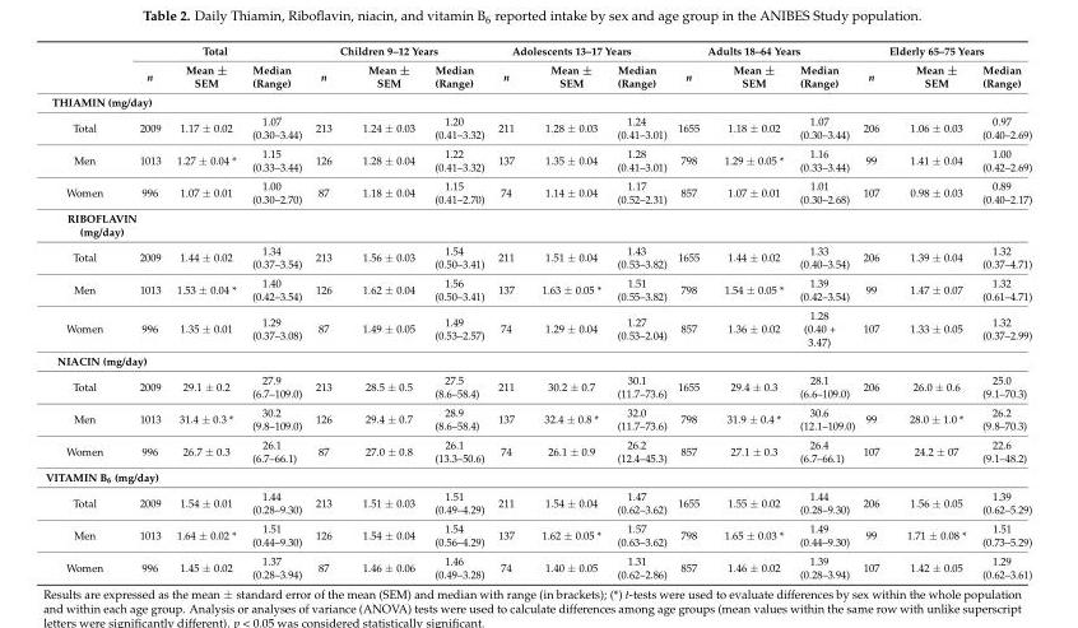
<table><thead><tr><td rowspan="2"></td><td colspan="3">Total</td><td colspan="3">Children 9–12 Years</td><td colspan="3">Adolescents 13–17 Years</td><td colspan="3">Adults 18–64 Years</td><td colspan="3">Elderly 65–75 Years</td></tr><tr><td>n</td><td>Mean ± SEM</td><td>Median (Range)</td><td>n</td><td>Mean ± SEM</td><td>Median (Range)</td><td>n</td><td>Mean ± SEM</td><td>Median (Range)</td><td>n</td><td>Mean ± SEM</td><td>Median (Range)</td><td>n</td><td>Mean ± SEM</td><td>Median (Range)</td></tr></thead><tbody><tr><td colspan="16">THIAMIN (mg/day)</td></tr><tr><td>Total</td><td>2009</td><td>1.17 ± 0.02</td><td>1.07 (0.30–3.44)</td><td>213</td><td>1.24 ± 0.03</td><td>1.20 (0.41–3.32)</td><td>211</td><td>1.28 ± 0.03</td><td>1.24 (0.41–3.01)</td><td>1655</td><td>1.18 ± 0.02</td><td>1.07 (0.30–3.44)</td><td>206</td><td>1.06 ± 0.03</td><td>0.97 (0.40–2.69)</td></tr><tr><td>Men</td><td>1013</td><td>1.27 ± 0.04 *</td><td>1.15 (0.33–3.44)</td><td>126</td><td>1.28 ± 0.04</td><td>1.22 (0.41–3.32)</td><td>137</td><td>1.35 ± 0.04</td><td>1.28 (0.41–3.01)</td><td>798</td><td>1.29 ± 0.05 *</td><td>1.16 (0.33–3.44)</td><td>99</td><td>1.41 ± 0.04</td><td>1.00 (0.42–2.69)</td></tr><tr><td>Women</td><td>996</td><td>1.07 ± 0.01</td><td>1.00 (0.30–2.70)</td><td>87</td><td>1.18 ± 0.04</td><td>1.15 (0.41–2.70)</td><td>74</td><td>1.14 ± 0.04</td><td>1.17 (0.52–2.31)</td><td>857</td><td>1.07 ± 0.01</td><td>1.01 (0.30–2.68)</td><td>107</td><td>0.98 ± 0.03</td><td>0.89 (0.40–2.17)</td></tr><tr><td colspan="16">RIBOFLAVIN (mg/day)</td></tr><tr><td>Total</td><td>2009</td><td>1.44 ± 0.02</td><td>1.34 (0.37–3.54)</td><td>213</td><td>1.56 ± 0.03</td><td>1.54 (0.50–3.41)</td><td>211</td><td>1.51 ± 0.04</td><td>1.43 (0.53–3.82)</td><td>1655</td><td>1.44 ± 0.02</td><td>1.33 (0.40–3.54)</td><td>206</td><td>1.39 ± 0.04</td><td>1.32 (0.37–4.71)</td></tr><tr><td>Men</td><td>1013</td><td>1.53 ± 0.04 *</td><td>1.40 (0.42–3.54)</td><td>126</td><td>1.62 ± 0.04</td><td>1.56 (0.50–3.41)</td><td>137</td><td>1.63 ± 0.05 *</td><td>1.51 (0.55–3.82)</td><td>798</td><td>1.54 ± 0.05 *</td><td>1.39 (0.42–3.54)</td><td>99</td><td>1.47 ± 0.07</td><td>1.32 (0.61–4.71)</td></tr><tr><td>Women</td><td>996</td><td>1.35 ± 0.01</td><td>1.29 (0.37–3.08)</td><td>87</td><td>1.49 ± 0.05</td><td>1.49 (0.53–2.57)</td><td>74</td><td>1.29 ± 0.04</td><td>1.27 (0.53–2.04)</td><td>857</td><td>1.36 ± 0.02</td><td>1.28 (0.40 + 3.47)</td><td>107</td><td>1.33 ± 0.05</td><td>1.32 (0.37–2.99)</td></tr><tr><td colspan="16">NIACIN (mg/day)</td></tr><tr><td>Total</td><td>2009</td><td>29.1 ± 0.2</td><td>27.9 (6.7–109.0)</td><td>213</td><td>28.5 ± 0.5</td><td>27.5 (8.6–58.4)</td><td>211</td><td>30.2 ± 0.7</td><td>30.1 (11.7–73.6)</td><td>1655</td><td>29.4 ± 0.3</td><td>28.1 (6.6–109.0)</td><td>206</td><td>26.0 ± 0.6</td><td>25.0 (9.1–70.3)</td></tr><tr><td>Men</td><td>1013</td><td>31.4 ± 0.3 *</td><td>30.2 (9.8–109.0)</td><td>126</td><td>29.4 ± 0.7</td><td>28.9 (8.6–58.4)</td><td>137</td><td>32.4 ± 0.8 *</td><td>32.0 (11.7–73.6)</td><td>798</td><td>31.9 ± 0.4 *</td><td>30.6 (12.1–109.0)</td><td>99</td><td>28.0 ± 1.0 *</td><td>26.2 (9.8–70.3)</td></tr><tr><td>Women</td><td>996</td><td>26.7 ± 0.3</td><td>26.1 (6.7–66.1)</td><td>87</td><td>27.0 ± 0.8</td><td>26.1 (13.3–50.6)</td><td>74</td><td>26.1 ± 0.9</td><td>26.2 (12.4–45.3)</td><td>857</td><td>27.1 ± 0.3</td><td>26.4 (6.7–66.1)</td><td>107</td><td>24.2 ± 07</td><td>22.6 (9.1–48.2)</td></tr><tr><td colspan="16">VITAMIN B<sub>6</sub> (mg/day)</td></tr><tr><td>Total</td><td>2009</td><td>1.54 ± 0.01</td><td>1.44 (0.28–9.30)</td><td>213</td><td>1.51 ± 0.03</td><td>1.51 (0.49–4.29)</td><td>211</td><td>1.54 ± 0.04</td><td>1.47 (0.62–3.62)</td><td>1655</td><td>1.55 ± 0.02</td><td>1.44 (0.28–9.30)</td><td>206</td><td>1.56 ± 0.05</td><td>1.39 (0.62–5.29)</td></tr><tr><td>Men</td><td>1013</td><td>1.64 ± 0.02 *</td><td>1.51 (0.44–9.30)</td><td>126</td><td>1.54 ± 0.04</td><td>1.54 (0.56–4.29)</td><td>137</td><td>1.62 ± 0.05 *</td><td>1.57 (0.63–3.62)</td><td>798</td><td>1.65 ± 0.03 *</td><td>1.49 (0.44–9.30)</td><td>99</td><td>1.71 ± 0.08 *</td><td>1.51 (0.73–5.29)</td></tr><tr><td>Women</td><td>996</td><td>1.45 ± 0.02</td><td>1.37 (0.28–3.94)</td><td>87</td><td>1.46 ± 0.06</td><td>1.46 (0.49–3.28)</td><td>74</td><td>1.40 ± 0.05</td><td>1.31 (0.62–2.86)</td><td>857</td><td>1.46 ± 0.02</td><td>1.39 (0.28–3.94)</td><td>107</td><td>1.42 ± 0.05</td><td>1.29 (0.62–3.61)</td></tr></tbody></table>